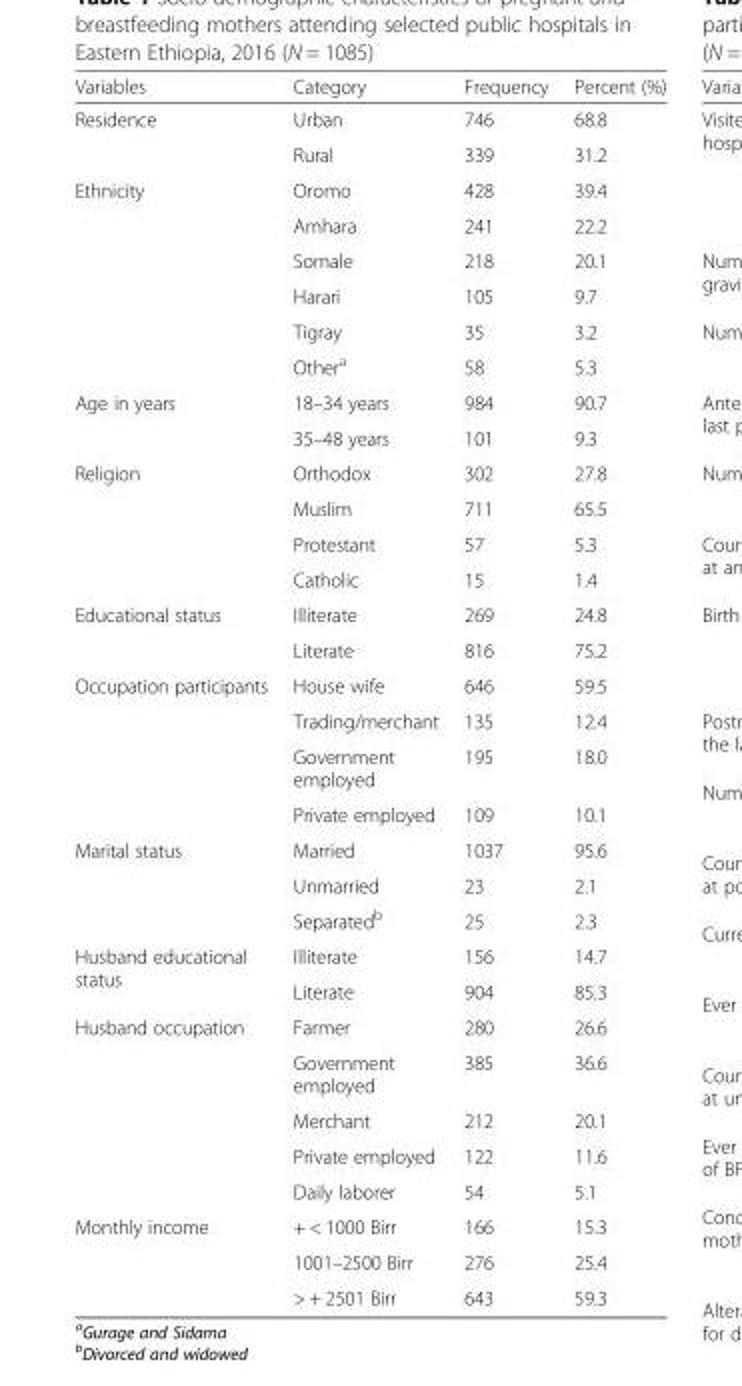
<table><thead><tr><td>Variables</td><td>Category</td><td>Frequency</td><td>Percent (%)</td></tr></thead><tbody><tr><td rowspan="2">Residence</td><td>Urban</td><td>746</td><td>68.8</td></tr><tr><td>Rural</td><td>339</td><td>31.2</td></tr><tr><td rowspan="6">Ethnicity</td><td>Oromo</td><td>428</td><td>39.4</td></tr><tr><td>Amhara</td><td>241</td><td>22.2</td></tr><tr><td>Somale</td><td>218</td><td>20.1</td></tr><tr><td>Harari</td><td>105</td><td>9.7</td></tr><tr><td>Tigray</td><td>35</td><td>3.2</td></tr><tr><td>Other<sup>a</sup></td><td>58</td><td>5.3</td></tr><tr><td rowspan="2">Age in years</td><td>18–34 years</td><td>984</td><td>90.7</td></tr><tr><td>35–48 years</td><td>101</td><td>9.3</td></tr><tr><td rowspan="4">Religion</td><td>Orthodox</td><td>302</td><td>27.8</td></tr><tr><td>Muslim</td><td>711</td><td>65.5</td></tr><tr><td>Protestant</td><td>57</td><td>5.3</td></tr><tr><td>Catholic</td><td>15</td><td>1.4</td></tr><tr><td rowspan="2">Educational status</td><td>Illiterate</td><td>269</td><td>24.8</td></tr><tr><td>Literate</td><td>816</td><td>75.2</td></tr><tr><td rowspan="4">Occupation participants</td><td>House wife</td><td>646</td><td>59.5</td></tr><tr><td>Trading/merchant</td><td>135</td><td>12.4</td></tr><tr><td>Government employed</td><td>195</td><td>18.0</td></tr><tr><td>Private employed</td><td>109</td><td>10.1</td></tr><tr><td rowspan="3">Marital status</td><td>Married</td><td>1037</td><td>95.6</td></tr><tr><td>Unmarried</td><td>23</td><td>2.1</td></tr><tr><td>Separated<sup>b</sup></td><td>25</td><td>2.3</td></tr><tr><td rowspan="2">Husband educational status</td><td>Illiterate</td><td>156</td><td>14.7</td></tr><tr><td>Literate</td><td>904</td><td>85.3</td></tr><tr><td rowspan="5">Husband occupation</td><td>Farmer</td><td>280</td><td>26.6</td></tr><tr><td>Government employed</td><td>385</td><td>36.6</td></tr><tr><td>Merchant</td><td>212</td><td>20.1</td></tr><tr><td>Private employed</td><td>122</td><td>11.6</td></tr><tr><td>Daily laborer</td><td>54</td><td>5.1</td></tr><tr><td rowspan="3">Monthly income</td><td>+ &lt; 1000 Birr</td><td>166</td><td>15.3</td></tr><tr><td>1001–2500 Birr</td><td>276</td><td>25.4</td></tr><tr><td>&gt; + 2501 Birr</td><td>643</td><td>59.3</td></tr></tbody></table>